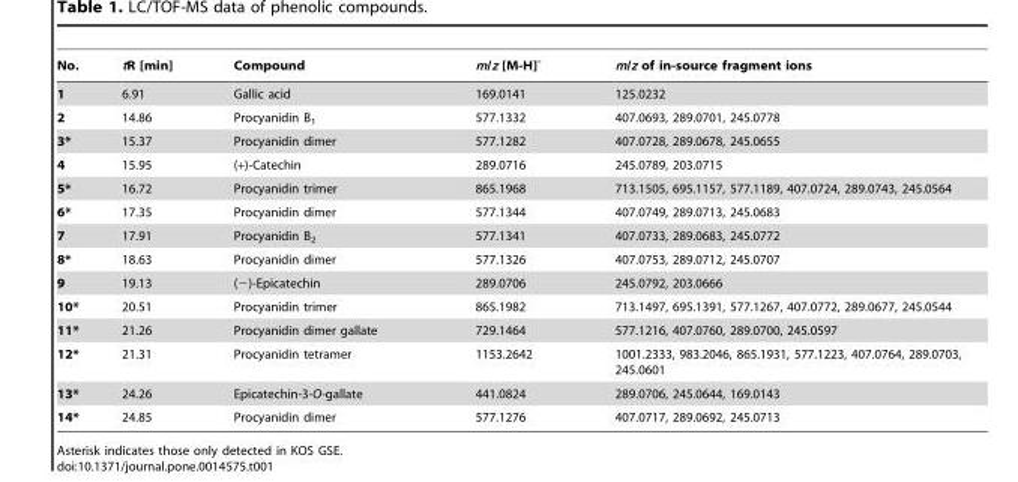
<table><thead><tr><td>No.</td><td>tR [min]</td><td>Compound</td><td>m/z [M-H]<sup>-</sup></td><td>m/z of in-source fragment ions</td></tr></thead><tbody><tr><td>1</td><td>6.91</td><td>Gallic acid</td><td>169.0141</td><td>125.0232</td></tr><tr><td>2</td><td>14.86</td><td>Procyanidin B<sub>1</sub></td><td>577.1332</td><td>407.0693, 289.0701, 245.0778</td></tr><tr><td>3*</td><td>15.37</td><td>Procyanidin dimer</td><td>577.1282</td><td>407.0728, 289.0678, 245.0655</td></tr><tr><td>4</td><td>15.95</td><td>(+)-Catechin</td><td>289.0716</td><td>245.0789, 203.0715</td></tr><tr><td>5*</td><td>16.72</td><td>Procyanidin trimer</td><td>865.1968</td><td>713.1505, 695.1157, 577.1189, 407.0724, 289.0743, 245.0564</td></tr><tr><td>6*</td><td>17.35</td><td>Procyanidin dimer</td><td>577.1344</td><td>407.0749, 289.0713, 245.0683</td></tr><tr><td>7</td><td>17.91</td><td>Procyanidin B<sub>2</sub></td><td>577.1341</td><td>407.0733, 289.0683, 245.0772</td></tr><tr><td>8*</td><td>18.63</td><td>Procyanidin dimer</td><td>577.1326</td><td>407.0753, 289.0712, 245.0707</td></tr><tr><td>9</td><td>19.13</td><td>(−)-Epicatechin</td><td>289.0706</td><td>245.0792, 203.0666</td></tr><tr><td>10*</td><td>20.51</td><td>Procyanidin trimer</td><td>865.1982</td><td>713.1497, 695.1391, 577.1267, 407.0772, 289.0677, 245.0544</td></tr><tr><td>11*</td><td>21.26</td><td>Procyanidin dimer gallate</td><td>729.1464</td><td>577.1216, 407.0760, 289.0700, 245.0597</td></tr><tr><td>12*</td><td>21.31</td><td>Procyanidin tetramer</td><td>1153.2642</td><td>1001.2333, 983.2046, 865.1931, 577.1223, 407.0764, 289.0703, 245.0601</td></tr><tr><td>13*</td><td>24.26</td><td>Epicatechin-3-O-gallate</td><td>441.0824</td><td>289.0706, 245.0644, 169.0143</td></tr><tr><td>14*</td><td>24.85</td><td>Procyanidin dimer</td><td>577.1276</td><td>407.0717, 289.0692, 245.0713</td></tr></tbody></table>